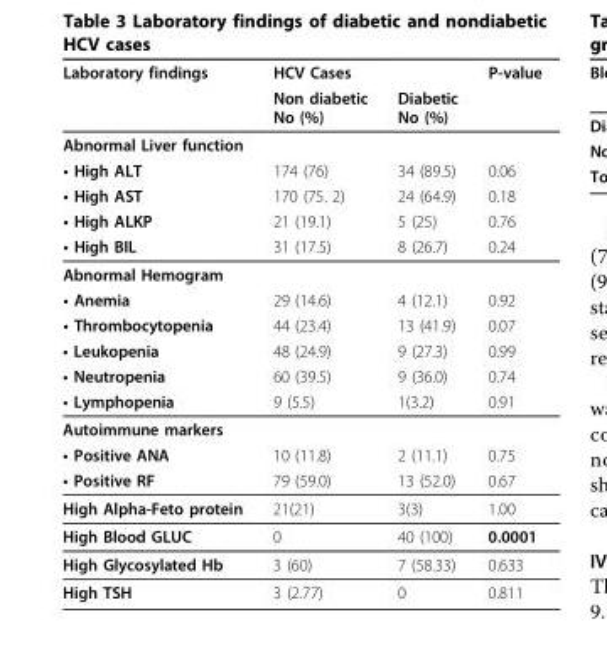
<table><thead><tr><td rowspan="2">Laboratory findings</td><td colspan="2">HCV Cases</td><td rowspan="2">P-value</td></tr><tr><td>Non diabetic No (%)</td><td>Diabetic No (%)</td></tr></thead><tbody><tr><td colspan="4">Abnormal Liver function</td></tr><tr><td>• High ALT</td><td>174 (76)</td><td>34 (89.5)</td><td>0.06</td></tr><tr><td>• High AST</td><td>170 (75. 2)</td><td>24 (64.9)</td><td>0.18</td></tr><tr><td>• High ALKP</td><td>21 (19.1)</td><td>5 (25)</td><td>0.76</td></tr><tr><td>• High BIL</td><td>31 (17.5)</td><td>8 (26.7)</td><td>0.24</td></tr><tr><td colspan="4">Abnormal Hemogram</td></tr><tr><td>• Anemia</td><td>29 (14.6)</td><td>4 (12.1)</td><td>0.92</td></tr><tr><td>• Thrombocytopenia</td><td>44 (23.4)</td><td>13 (41.9)</td><td>0.07</td></tr><tr><td>• Leukopenia</td><td>48 (24.9)</td><td>9 (27.3)</td><td>0.99</td></tr><tr><td>• Neutropenia</td><td>60 (39.5)</td><td>9 (36.0)</td><td>0.74</td></tr><tr><td>• Lymphopenia</td><td>9 (5.5)</td><td>1(3.2)</td><td>0.91</td></tr><tr><td colspan="4">Autoimmune markers</td></tr><tr><td>• Positive ANA</td><td>10 (11.8)</td><td>2 (11.1)</td><td>0.75</td></tr><tr><td>• Positive RF</td><td>79 (59.0)</td><td>13 (52.0)</td><td>0.67</td></tr><tr><td>High Alpha-Feto protein</td><td>21(21)</td><td>3(3)</td><td>1.00</td></tr><tr><td>High Blood GLUC</td><td>0</td><td>40 (100)</td><td>0.0001</td></tr><tr><td>High Glycosylated Hb</td><td>3 (60)</td><td>7 (58.33)</td><td>0.633</td></tr><tr><td>High TSH</td><td>3 (2.77)</td><td>0</td><td>0.811</td></tr></tbody></table>